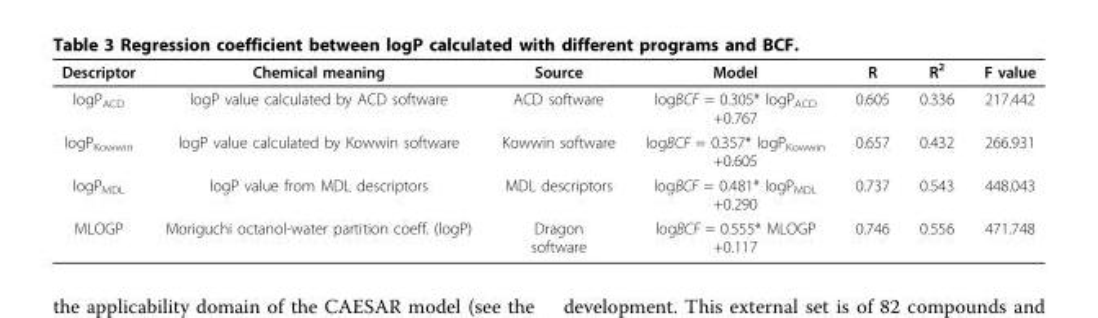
<table><thead><tr><td>Descriptor</td><td>Chemical meaning</td><td>Source</td><td>Model</td><td>R</td><td>R<sup>2</sup></td><td>F value</td></tr></thead><tbody><tr><td>logP<sub>ACD</sub></td><td>logP value calculated by ACD software</td><td>ACD software</td><td>logBCF = 0.305* logP<sub>ACD</sub> +0.767</td><td>0.605</td><td>0.336</td><td>217.442</td></tr><tr><td>logP<sub>Kowwin</sub></td><td>logP value calculated by Kowwin software</td><td>Kowwin software</td><td>logBCF = 0.357* logP<sub>Kowwin</sub> +0.605</td><td>0.657</td><td>0.432</td><td>266.931</td></tr><tr><td>logP<sub>MDL</sub></td><td>logP value from MDL descriptors</td><td>MDL descriptors</td><td>logBCF = 0.481* logP<sub>MDL</sub> +0.290</td><td>0.737</td><td>0.543</td><td>448.043</td></tr><tr><td>MLOGP</td><td>Moriguchi octanol-water partition coeff. (logP)</td><td>Dragon software</td><td>logBCF = 0.555* MLOGP +0.117</td><td>0.746</td><td>0.556</td><td>471.748</td></tr></tbody></table>